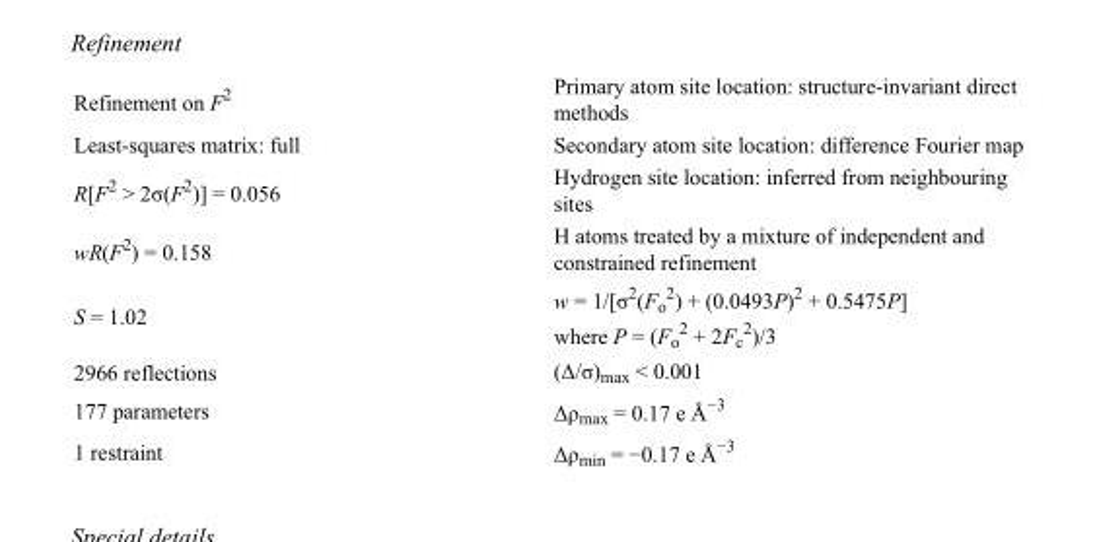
<table><tbody><tr><td>Refinement on F<sup>2</sup></td><td>Primary atom site location: structure-invariant direct methods</td></tr><tr><td>Least-squares matrix: full</td><td>Secondary atom site location: difference Fourier map</td></tr><tr><td>R[F<sup>2</sup> &gt; 2σ(F<sup>2</sup>)] = 0.056</td><td>Hydrogen site location: inferred from neighbouring sites</td></tr><tr><td>wR(F<sup>2</sup>) = 0.158</td><td>H atoms treated by a mixture of independent and constrained refinement</td></tr><tr><td>S = 1.02</td><td>w = 1/[σ<sup>2</sup>(F<sub>o</sub> <sup>2</sup>) + (0.0493P)<sup>2</sup> + 0.5475P] where P = (F<sub>o</sub> <sup>2</sup> + 2F<sub>c</sub> <sup>2</sup>)/3</td></tr><tr><td>2966 reflections</td><td>(Δ/σ)<sub>max</sub> &lt; 0.001</td></tr><tr><td>177 parameters</td><td>Δρ<sub>max</sub> = 0.17 e Å<sup>−3</sup></td></tr><tr><td>1 restraint</td><td>Δρ<sub>min</sub> = −0.17 e Å<sup>−3</sup></td></tr></tbody></table>